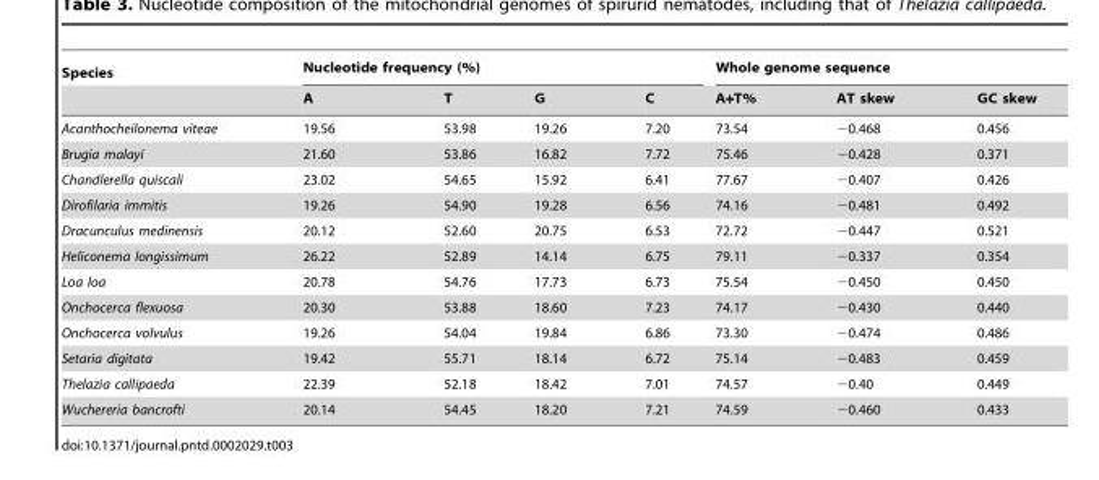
<table><thead><tr><td rowspan="2">Species</td><td colspan="4">Nucleotide frequency (%)</td><td colspan="3">Whole genome sequence</td></tr><tr><td>A</td><td>T</td><td>G</td><td>C</td><td>A+T%</td><td>AT skew</td><td>GC skew</td></tr></thead><tbody><tr><td>Acanthocheilonema viteae</td><td>19.56</td><td>53.98</td><td>19.26</td><td>7.20</td><td>73.54</td><td>−0.468</td><td>0.456</td></tr><tr><td>Brugia malayi</td><td>21.60</td><td>53.86</td><td>16.82</td><td>7.72</td><td>75.46</td><td>−0.428</td><td>0.371</td></tr><tr><td>Chandlerella quiscali</td><td>23.02</td><td>54.65</td><td>15.92</td><td>6.41</td><td>77.67</td><td>−0.407</td><td>0.426</td></tr><tr><td>Dirofilaria immitis</td><td>19.26</td><td>54.90</td><td>19.28</td><td>6.56</td><td>74.16</td><td>−0.481</td><td>0.492</td></tr><tr><td>Dracunculus medinensis</td><td>20.12</td><td>52.60</td><td>20.75</td><td>6.53</td><td>72.72</td><td>−0.447</td><td>0.521</td></tr><tr><td>Heliconema longissimum</td><td>26.22</td><td>52.89</td><td>14.14</td><td>6.75</td><td>79.11</td><td>−0.337</td><td>0.354</td></tr><tr><td>Loa loa</td><td>20.78</td><td>54.76</td><td>17.73</td><td>6.73</td><td>75.54</td><td>−0.450</td><td>0.450</td></tr><tr><td>Onchocerca flexuosa</td><td>20.30</td><td>53.88</td><td>18.60</td><td>7.23</td><td>74.17</td><td>−0.430</td><td>0.440</td></tr><tr><td>Onchocerca volvulus</td><td>19.26</td><td>54.04</td><td>19.84</td><td>6.86</td><td>73.30</td><td>−0.474</td><td>0.486</td></tr><tr><td>Setaria digitata</td><td>19.42</td><td>55.71</td><td>18.14</td><td>6.72</td><td>75.14</td><td>−0.483</td><td>0.459</td></tr><tr><td>Thelazia callipaeda</td><td>22.39</td><td>52.18</td><td>18.42</td><td>7.01</td><td>74.57</td><td>−0.40</td><td>0.449</td></tr><tr><td>Wuchereria bancrofti</td><td>20.14</td><td>54.45</td><td>18.20</td><td>7.21</td><td>74.59</td><td>−0.460</td><td>0.433</td></tr></tbody></table>